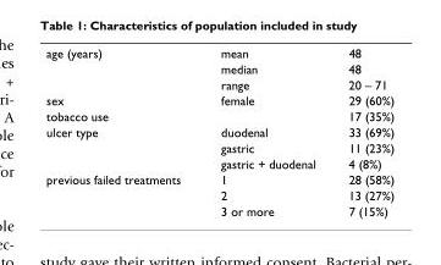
<table><tbody><tr><td rowspan="3">age (years)</td><td>mean</td><td>48</td></tr><tr><td>median</td><td>48</td></tr><tr><td>range</td><td>20 – 71</td></tr><tr><td>sex</td><td>female</td><td>29 (60%)</td></tr><tr><td>tobacco use</td><td></td><td>17 (35%)</td></tr><tr><td rowspan="3">ulcer type</td><td>duodenal</td><td>33 (69%)</td></tr><tr><td>gastric</td><td>11 (23%)</td></tr><tr><td>gastric + duodenal</td><td>4 (8%)</td></tr><tr><td rowspan="3">previous failed treatments</td><td>1</td><td>28 (58%)</td></tr><tr><td>2</td><td>13 (27%)</td></tr><tr><td>3 or more</td><td>7 (15%)</td></tr></tbody></table>